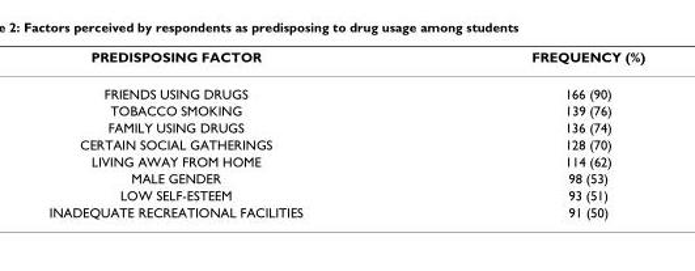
<table><thead><tr><td>PREDISPOSING FACTOR</td><td>FREQUENCY (%)</td></tr></thead><tbody><tr><td>FRIENDS USING DRUGS</td><td>166 (90)</td></tr><tr><td>TOBACCO SMOKING</td><td>139 (76)</td></tr><tr><td>FAMILY USING DRUGS</td><td>136 (74)</td></tr><tr><td>CERTAIN SOCIAL GATHERINGS</td><td>128 (70)</td></tr><tr><td>LIVING AWAY FROM HOME</td><td>114 (62)</td></tr><tr><td>MALE GENDER</td><td>98 (53)</td></tr><tr><td>LOW SELF-ESTEEM</td><td>93 (51)</td></tr><tr><td>INADEQUATE RECREATIONAL FACILITIES</td><td>91 (50)</td></tr></tbody></table>